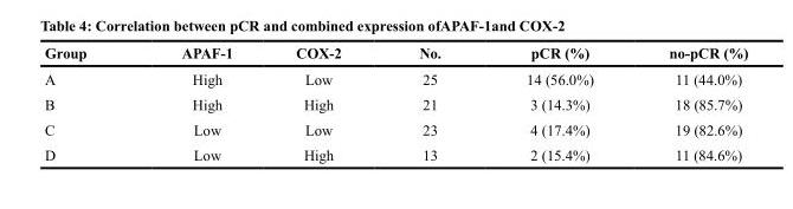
<table><thead><tr><td>Group</td><td>APAF-1</td><td>COX-2</td><td>No.</td><td>pCR (%)</td><td>no-pCR (%)</td></tr></thead><tbody><tr><td>A</td><td>High</td><td>Low</td><td>25</td><td>14 (56.0%)</td><td>11 (44.0%)</td></tr><tr><td>B</td><td>High</td><td>High</td><td>21</td><td>3 (14.3%)</td><td>18 (85.7%)</td></tr><tr><td>C</td><td>Low</td><td>Low</td><td>23</td><td>4 (17.4%)</td><td>19 (82.6%)</td></tr><tr><td>D</td><td>Low</td><td>High</td><td>13</td><td>2 (15.4%)</td><td>11 (84.6%)</td></tr></tbody></table>